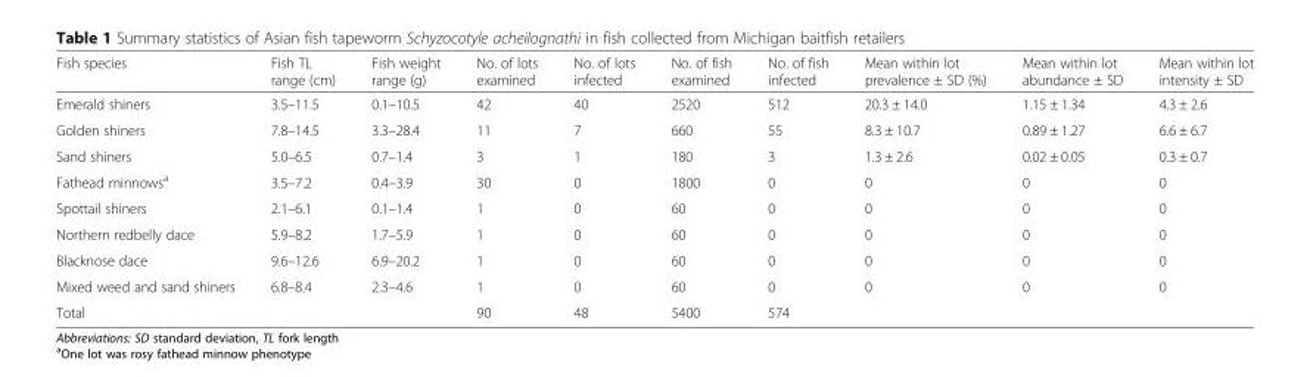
<table><thead><tr><td>Fish species</td><td>Fish TL range (cm)</td><td>Fish weight range (g)</td><td>No. of lots examined</td><td>No. of lots infected</td><td>No. of fish examined</td><td>No. of fish infected</td><td>Mean within lot prevalence ± SD (%)</td><td>Mean within lot abundance ± SD</td><td>Mean within lot intensity ± SD</td></tr></thead><tbody><tr><td>Emerald shiners</td><td>3.5–11.5</td><td>0.1–10.5</td><td>42</td><td>40</td><td>2520</td><td>512</td><td>20.3 ± 14.0</td><td>1.15 ± 1.34</td><td>4.3 ± 2.6</td></tr><tr><td>Golden shiners</td><td>7.8–14.5</td><td>3.3–28.4</td><td>11</td><td>7</td><td>660</td><td>55</td><td>8.3 ± 10.7</td><td>0.89 ± 1.27</td><td>6.6 ± 6.7</td></tr><tr><td>Sand shiners</td><td>5.0–6.5</td><td>0.7–1.4</td><td>3</td><td>1</td><td>180</td><td>3</td><td>1.3 ± 2.6</td><td>0.02 ± 0.05</td><td>0.3 ± 0.7</td></tr><tr><td>Fathead minnows<sup>a</sup></td><td>3.5–7.2</td><td>0.4–3.9</td><td>30</td><td>0</td><td>1800</td><td>0</td><td>0</td><td>0</td><td>0</td></tr><tr><td>Spottail shiners</td><td>2.1–6.1</td><td>0.1–1.4</td><td>1</td><td>0</td><td>60</td><td>0</td><td>0</td><td>0</td><td>0</td></tr><tr><td>Northern redbelly dace</td><td>5.9–8.2</td><td>1.7–5.9</td><td>1</td><td>0</td><td>60</td><td>0</td><td>0</td><td>0</td><td>0</td></tr><tr><td>Blacknose dace</td><td>9.6–12.6</td><td>6.9–20.2</td><td>1</td><td>0</td><td>60</td><td>0</td><td>0</td><td>0</td><td>0</td></tr><tr><td>Mixed weed and sand shiners</td><td>6.8–8.4</td><td>2.3–4.6</td><td>1</td><td>0</td><td>60</td><td>0</td><td>0</td><td>0</td><td>0</td></tr><tr><td>Total</td><td></td><td></td><td>90</td><td>48</td><td>5400</td><td>574</td><td></td><td></td><td></td></tr></tbody></table>